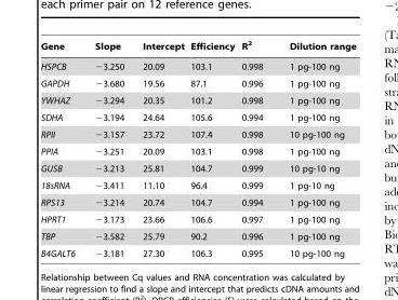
<table><thead><tr><td>Gene</td><td>Slope</td><td>Intercept</td><td>Efficiency</td><td>R<sup>2</sup></td><td>Dilution range</td></tr></thead><tbody><tr><td>HSPCB</td><td>−3.250</td><td>20.09</td><td>103.1</td><td>0.998</td><td>1 pg-100 ng</td></tr><tr><td>GAPDH</td><td>−3.680</td><td>19.56</td><td>87.1</td><td>0.996</td><td>1 pg-100 ng</td></tr><tr><td>YWHAZ</td><td>−3.294</td><td>20.35</td><td>101.2</td><td>0.998</td><td>1 pg-100 ng</td></tr><tr><td>SDHA</td><td>−3.194</td><td>24.64</td><td>105.6</td><td>0.994</td><td>1 pg-100 ng</td></tr><tr><td>RPII</td><td>−3.157</td><td>23.72</td><td>107.4</td><td>0.998</td><td>10 pg-100 ng</td></tr><tr><td>PPIA</td><td>−3.251</td><td>20.09</td><td>103.1</td><td>0.998</td><td>1 pg-100 ng</td></tr><tr><td>GUSB</td><td>−3.213</td><td>25.81</td><td>104.7</td><td>0.999</td><td>10 pg-10 ng</td></tr><tr><td>18sRNA</td><td>−3.411</td><td>11.10</td><td>96.4</td><td>0.999</td><td>1 pg-10 ng</td></tr><tr><td>RPS13</td><td>−3.214</td><td>20.74</td><td>104.7</td><td>0.994</td><td>1 pg-100 ng</td></tr><tr><td>HPRT1</td><td>−3.173</td><td>23.66</td><td>106.6</td><td>0.997</td><td>1 pg-100 ng</td></tr><tr><td>TBP</td><td>−3.582</td><td>25.79</td><td>90.2</td><td>0.996</td><td>1 pg-100 ng</td></tr><tr><td>B4GALT6</td><td>−3.181</td><td>27.30</td><td>106.3</td><td>0.995</td><td>10 pg-100 ng</td></tr></tbody></table>